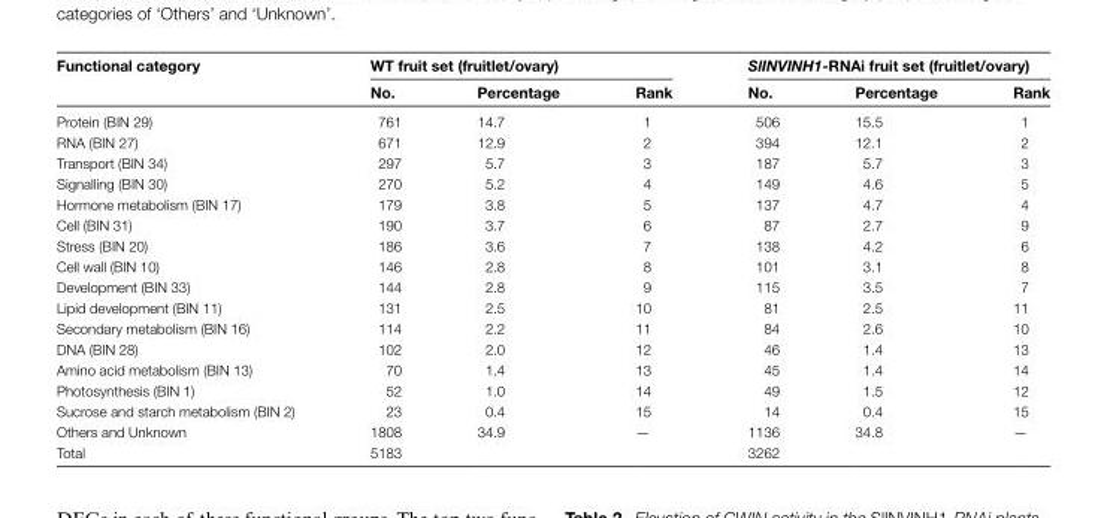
<table><thead><tr><td rowspan="2">Functional category</td><td colspan="3">WT fruit set (fruitlet/ovary)</td><td colspan="3">SlINVINH1-RNAi fruit set (fruitlet/ovary)</td></tr><tr><td>No.</td><td>Percentage</td><td>Rank</td><td>No.</td><td>Percentage</td><td>Rank</td></tr></thead><tbody><tr><td>Protein (BIN 29)</td><td>761</td><td>14.7</td><td>1</td><td>506</td><td>15.5</td><td>1</td></tr><tr><td>RNA (BIN 27)</td><td>671</td><td>12.9</td><td>2</td><td>394</td><td>12.1</td><td>2</td></tr><tr><td>Transport (BIN 34)</td><td>297</td><td>5.7</td><td>3</td><td>187</td><td>5.7</td><td>3</td></tr><tr><td>Signalling (BIN 30)</td><td>270</td><td>5.2</td><td>4</td><td>149</td><td>4.6</td><td>5</td></tr><tr><td>Hormone metabolism (BIN 17)</td><td>179</td><td>3.8</td><td>5</td><td>137</td><td>4.7</td><td>4</td></tr><tr><td>Cell (BIN 31)</td><td>190</td><td>3.7</td><td>6</td><td>87</td><td>2.7</td><td>9</td></tr><tr><td>Stress (BIN 20)</td><td>186</td><td>3.6</td><td>7</td><td>138</td><td>4.2</td><td>6</td></tr><tr><td>Cell wall (BIN 10)</td><td>146</td><td>2.8</td><td>8</td><td>101</td><td>3.1</td><td>8</td></tr><tr><td>Development (BIN 33)</td><td>144</td><td>2.8</td><td>9</td><td>115</td><td>3.5</td><td>7</td></tr><tr><td>Lipid development (BIN 11)</td><td>131</td><td>2.5</td><td>10</td><td>81</td><td>2.5</td><td>11</td></tr><tr><td>Secondary metabolism (BIN 16)</td><td>114</td><td>2.2</td><td>11</td><td>84</td><td>2.6</td><td>10</td></tr><tr><td>DNA (BIN 28)</td><td>102</td><td>2.0</td><td>12</td><td>46</td><td>1.4</td><td>13</td></tr><tr><td>Amino acid metabolism (BIN 13)</td><td>70</td><td>1.4</td><td>13</td><td>45</td><td>1.4</td><td>14</td></tr><tr><td>Photosynthesis (BIN 1)</td><td>52</td><td>1.0</td><td>14</td><td>49</td><td>1.5</td><td>12</td></tr><tr><td>Sucrose and starch metabolism (BIN 2)</td><td>23</td><td>0.4</td><td>15</td><td>14</td><td>0.4</td><td>15</td></tr><tr><td>Others and Unknown</td><td>1808</td><td>34.9</td><td>—</td><td>1136</td><td>34.8</td><td>—</td></tr><tr><td>Total</td><td>5183</td><td></td><td></td><td>3262</td><td></td><td></td></tr></tbody></table>